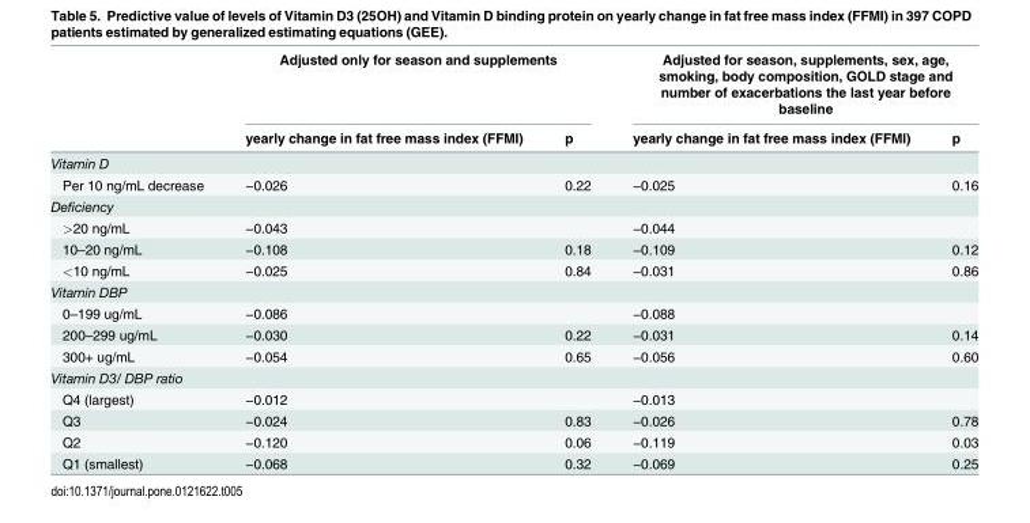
<table><thead><tr><td rowspan="2"></td><td colspan="2">Adjusted only for season and supplements</td><td colspan="2">Adjusted for season, supplements, sex, age, smoking, body composition, GOLD stage and number of exacerbations the last year before baseline</td></tr><tr><td>yearly change in fat free mass index (FFMI)</td><td>p</td><td>yearly change in fat free mass index (FFMI)</td><td>p</td></tr></thead><tbody><tr><td colspan="5">Vitamin D</td></tr><tr><td>Per 10 ng/mL decrease</td><td>−0.026</td><td>0.22</td><td>−0.025</td><td>0.16</td></tr><tr><td colspan="5">Deficiency</td></tr><tr><td>&gt;20 ng/mL</td><td>−0.043</td><td></td><td>−0.044</td><td></td></tr><tr><td>10–20 ng/mL</td><td>−0.108</td><td>0.18</td><td>−0.109</td><td>0.12</td></tr><tr><td>&lt;10 ng/mL</td><td>−0.025</td><td>0.84</td><td>−0.031</td><td>0.86</td></tr><tr><td colspan="5">Vitamin DBP</td></tr><tr><td>0–199 ug/mL</td><td>−0.086</td><td></td><td>−0.088</td><td></td></tr><tr><td>200–299 ug/mL</td><td>−0.030</td><td>0.22</td><td>−0.031</td><td>0.14</td></tr><tr><td>300+ ug/mL</td><td>−0.054</td><td>0.65</td><td>−0.056</td><td>0.60</td></tr><tr><td colspan="5">Vitamin D3/ DBP ratio</td></tr><tr><td>Q4 (largest)</td><td>−0.012</td><td></td><td>−0.013</td><td></td></tr><tr><td>Q3</td><td>−0.024</td><td>0.83</td><td>−0.026</td><td>0.78</td></tr><tr><td>Q2</td><td>−0.120</td><td>0.06</td><td>−0.119</td><td>0.03</td></tr><tr><td>Q1 (smallest)</td><td>−0.068</td><td>0.32</td><td>−0.069</td><td>0.25</td></tr></tbody></table>